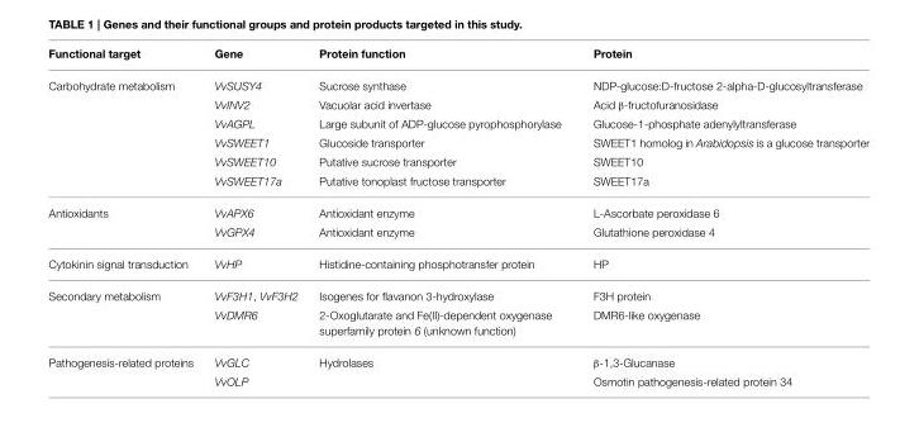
<table><thead><tr><td>Functional target</td><td>Gene</td><td>Protein function</td><td>Protein</td></tr></thead><tbody><tr><td rowspan="6">Carbohydrate metabolism</td><td>VvSUSY4</td><td>Sucrose synthase</td><td>NDP-glucose:D-fructose 2-alpha-D-glucosyltransferase</td></tr><tr><td>VvINV2</td><td>Vacuolar acid invertase</td><td>Acid β-fructofuranosidase</td></tr><tr><td>VvAGPL</td><td>Large subunit of ADP-glucose pyrophosphorylase</td><td>Glucose-1-phosphate adenylyltransferase</td></tr><tr><td>VvSWEET1</td><td>Glucoside transporter</td><td>SWEET1 homolog in Arabidopsis is a glucose transporter</td></tr><tr><td>VvSWEET10</td><td>Putative sucrose transporter</td><td>SWEET10</td></tr><tr><td>VvSWEET17a</td><td>Putative tonoplast fructose transporter</td><td>SWEET17a</td></tr><tr><td rowspan="2">Antioxidants</td><td>VvAPX6</td><td>Antioxidant enzyme</td><td>L-Ascorbate peroxidase 6</td></tr><tr><td>VvGPX4</td><td>Antioxidant enzyme</td><td>Glutathione peroxidase 4</td></tr><tr><td>Cytokinin signal transduction</td><td>VvHP</td><td>Histidine-containing phosphotransfer protein</td><td>HP</td></tr><tr><td rowspan="2">Secondary metabolism</td><td>VvF3H1, VvF3H2</td><td>Isogenes for flavanon 3-hydroxylase</td><td>F3H protein</td></tr><tr><td>VvDMR6</td><td>2-Oxoglutarate and Fe(II)-dependent oxygenase superfamily protein 6 (unknown function)</td><td>DMR6-like oxygenase</td></tr><tr><td rowspan="2">Pathogenesis-related proteins</td><td>VvGLC</td><td>Hydrolases</td><td>β-1,3-Glucanase</td></tr><tr><td>VvOLP</td><td></td><td>Osmotin pathogenesis-related protein 34</td></tr></tbody></table>